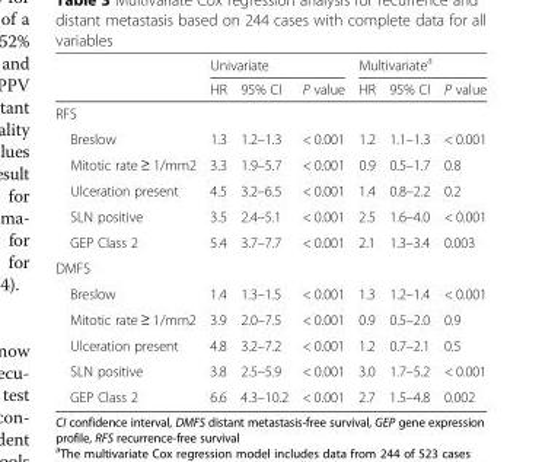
<table><thead><tr><td rowspan="2"></td><td colspan="3">Univariate</td><td colspan="3">Multivariate<sup>a</sup></td></tr><tr><td>HR</td><td>95% CI</td><td>P value</td><td>HR</td><td>95% CI</td><td>P value</td></tr></thead><tbody><tr><td colspan="7">RFS</td></tr><tr><td>Breslow</td><td>1.3</td><td>1.2–1.3</td><td>&lt; 0.001</td><td>1.2</td><td>1.1–1.3</td><td>&lt; 0.001</td></tr><tr><td>Mitotic rate ≥ 1/mm2</td><td>3.3</td><td>1.9–5.7</td><td>&lt; 0.001</td><td>0.9</td><td>0.5–1.7</td><td>0.8</td></tr><tr><td>Ulceration present</td><td>4.5</td><td>3.2–6.5</td><td>&lt; 0.001</td><td>1.4</td><td>0.8–2.2</td><td>0.2</td></tr><tr><td>SLN positive</td><td>3.5</td><td>2.4–5.1</td><td>&lt; 0.001</td><td>2.5</td><td>1.6–4.0</td><td>&lt; 0.001</td></tr><tr><td>GEP Class 2</td><td>5.4</td><td>3.7–7.7</td><td>&lt; 0.001</td><td>2.1</td><td>1.3–3.4</td><td>0.003</td></tr><tr><td colspan="7">DMFS</td></tr><tr><td>Breslow</td><td>1.4</td><td>1.3–1.5</td><td>&lt; 0.001</td><td>1.3</td><td>1.2–1.4</td><td>&lt; 0.001</td></tr><tr><td>Mitotic rate ≥ 1/mm2</td><td>3.9</td><td>2.0–7.5</td><td>&lt; 0.001</td><td>0.9</td><td>0.5–2.0</td><td>0.9</td></tr><tr><td>Ulceration present</td><td>4.8</td><td>3.2–7.2</td><td>&lt; 0.001</td><td>1.2</td><td>0.7–2.1</td><td>0.5</td></tr><tr><td>SLN positive</td><td>3.8</td><td>2.5–5.9</td><td>&lt; 0.001</td><td>3.0</td><td>1.7–5.2</td><td>&lt; 0.001</td></tr><tr><td>GEP Class 2</td><td>6.6</td><td>4.3–10.2</td><td>&lt; 0.001</td><td>2.7</td><td>1.5–4.8</td><td>0.002</td></tr></tbody></table>